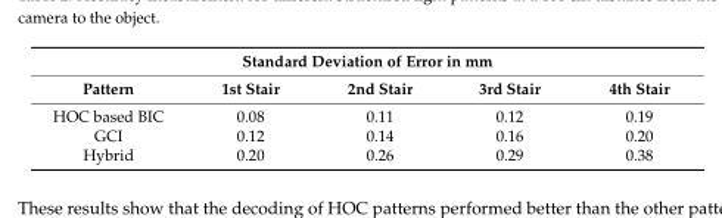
<table><thead><tr><td colspan="5">Standard Deviation of Error in mm</td></tr><tr><td>Pattern</td><td>1st Stair</td><td>2nd Stair</td><td>3rd Stair</td><td>4th Stair</td></tr></thead><tbody><tr><td>HOC based BIC</td><td>0.08</td><td>0.11</td><td>0.12</td><td>0.19</td></tr><tr><td>GCI</td><td>0.12</td><td>0.14</td><td>0.16</td><td>0.20</td></tr><tr><td>Hybrid</td><td>0.20</td><td>0.26</td><td>0.29</td><td>0.38</td></tr></tbody></table>